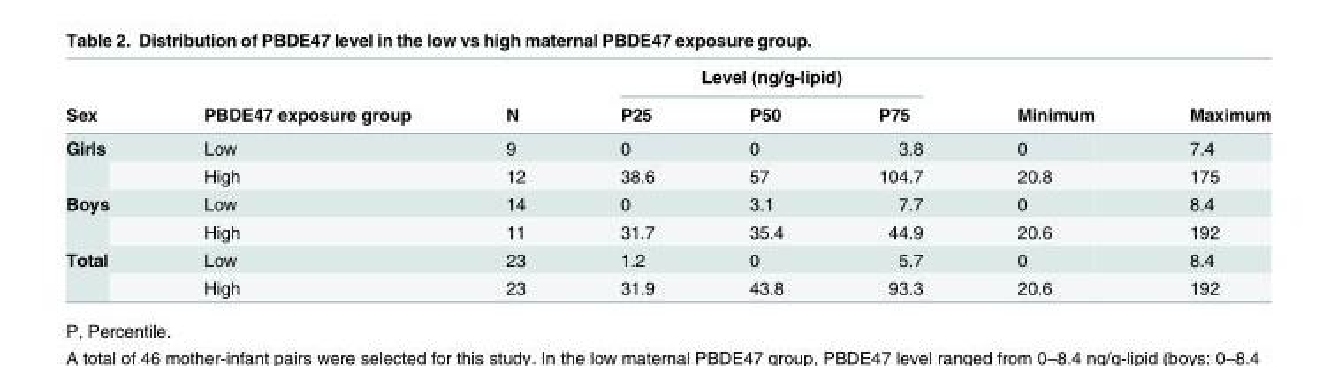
<table><thead><tr><td rowspan="2">Sex</td><td rowspan="2">PBDE47 exposure group</td><td rowspan="2">N</td><td colspan="3">Level (ng/g-lipid)</td><td rowspan="2">Minimum</td><td rowspan="2">Maximum</td></tr><tr><td>P25</td><td>P50</td><td>P75</td></tr></thead><tbody><tr><td rowspan="2">Girls</td><td>Low</td><td>9</td><td>0</td><td>0</td><td>3.8</td><td>0</td><td>7.4</td></tr><tr><td>High</td><td>12</td><td>38.6</td><td>57</td><td>104.7</td><td>20.8</td><td>175</td></tr><tr><td rowspan="2">Boys</td><td>Low</td><td>14</td><td>0</td><td>3.1</td><td>7.7</td><td>0</td><td>8.4</td></tr><tr><td>High</td><td>11</td><td>31.7</td><td>35.4</td><td>44.9</td><td>20.6</td><td>192</td></tr><tr><td rowspan="2">Total</td><td>Low</td><td>23</td><td>1.2</td><td>0</td><td>5.7</td><td>0</td><td>8.4</td></tr><tr><td>High</td><td>23</td><td>31.9</td><td>43.8</td><td>93.3</td><td>20.6</td><td>192</td></tr></tbody></table>